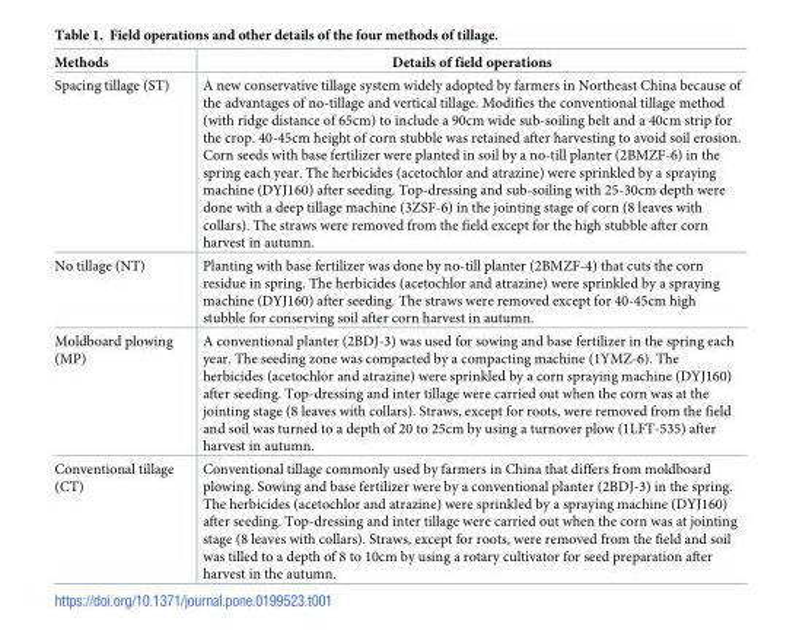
<table><thead><tr><td>Methods</td><td>Details of field operations</td></tr></thead><tbody><tr><td>Spacing tillage (ST)</td><td>A new conservative tillage system widely adopted by farmers in Northeast China because of the advantages of no-tillage and vertical tillage. Modifies the conventional tillage method (with ridge distance of 65cm) to include a 90cm wide sub-soiling belt and a 40cm strip for the crop. 40-45cm height of corn stubble was retained after harvesting to avoid soil erosion. Corn seeds with base fertilizer were planted in soil by a no-till planter (2BMZF-6) in the spring each year. The herbicides (acetochlor and atrazine) were sprinkled by a spraying machine (DYJ160) after seeding. Top-dressing and sub-soiling with 25-30cm depth were done with a deep tillage machine (3ZSF-6) in the jointing stage of corn (8 leaves with collars). The straws were removed from the field except for the high stubble after corn harvest in autumn.</td></tr><tr><td>No tillage (NT)</td><td>Planting with base fertilizer was done by no-till planter (2BMZF-4) that cuts the corn residue in spring. The herbicides (acetochlor and atrazine) were sprinkled by a spraying machine (DYJ160) after seeding. The straws were removed except for 40-45cm high stubble for conserving soil after corn harvest in autumn.</td></tr><tr><td>Moldboard plowing (MP)</td><td>A conventional planter (2BDJ-3) was used for sowing and base fertilizer in the spring each year. The seeding zone was compacted by a compacting machine (1YMZ-6). The herbicides (acetochlor and atrazine) were sprinkled by a corn spraying machine (DYJ160) after seeding. Top-dressing and inter tillage were carried out when the corn was at the jointing stage (8 leaves with collars). Straws, except for roots, were removed from the field and soil was turned to a depth of 20 to 25cm by using a turnover plow (1LFT-535) after harvest in autumn.</td></tr><tr><td>Conventional tillage (CT)</td><td>Conventional tillage commonly used by farmers in China that differs from moldboard plowing. Sowing and base fertilizer were by a conventional planter (2BDJ-3) in the spring. The herbicides (acetochlor and atrazine) were sprinkled by a spraying machine (DYJ160) after seeding. Top-dressing and inter tillage were carried out when the corn was at jointing stage (8 leaves with collars). Straws, except for roots, were removed from the field and soil was tilled to a depth of 8 to 10cm by using a rotary cultivator for seed preparation after harvest in the autumn.</td></tr></tbody></table>